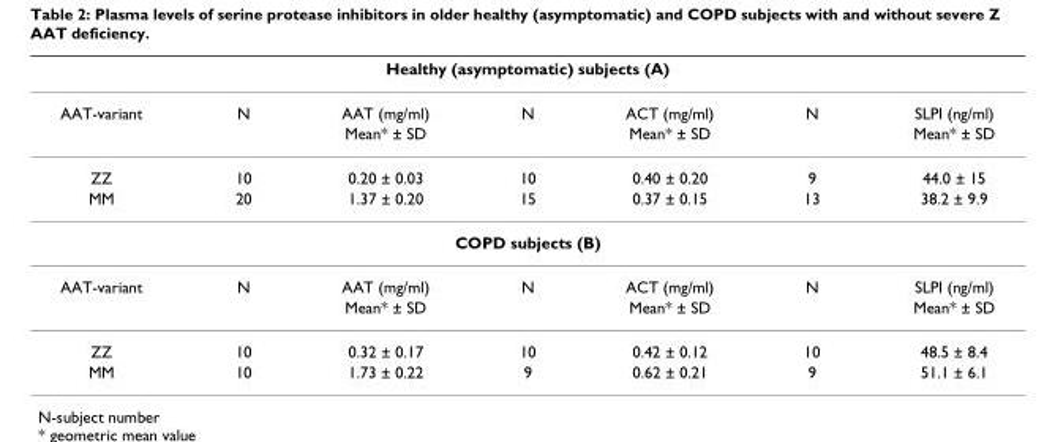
<table><thead><tr><td colspan="7">Healthy (asymptomatic) subjects (A)</td></tr><tr><td>AAT-variant</td><td>N</td><td>AAT (mg/ml)</td><td>N</td><td>ACT (mg/ml)</td><td>N</td><td>SLPI (ng/ml)</td></tr></thead><tbody><tr><td></td><td></td><td>Mean* ± SD</td><td></td><td>Mean* ± SD</td><td></td><td>Mean* ± SD</td></tr><tr><td>ZZ</td><td>10</td><td>0.20 ± 0.03</td><td>10</td><td>0.40 ± 0.20</td><td>9</td><td>44.0 ± 15</td></tr><tr><td>MM</td><td>20</td><td>1.37 ± 0.20</td><td>15</td><td>0.37 ± 0.15</td><td>13</td><td>38.2 ± 9.9</td></tr><tr><td colspan="7">COPD subjects (B)</td></tr><tr><td rowspan="2">AAT-variant</td><td>N</td><td>AAT (mg/ml)</td><td>N</td><td>ACT (mg/ml)</td><td>N</td><td>SLPI (ng/ml)</td></tr><tr><td></td><td>Mean* ± SD</td><td></td><td>Mean* ± SD</td><td></td><td>Mean* ± SD</td></tr><tr><td>ZZ</td><td>10</td><td>0.32 ± 0.17</td><td>10</td><td>0.42 ± 0.12</td><td>10</td><td>48.5 ± 8.4</td></tr><tr><td>MM</td><td>10</td><td>1.73 ± 0.22</td><td>9</td><td>0.62 ± 0.21</td><td>9</td><td>51.1 ± 6.1</td></tr></tbody></table>